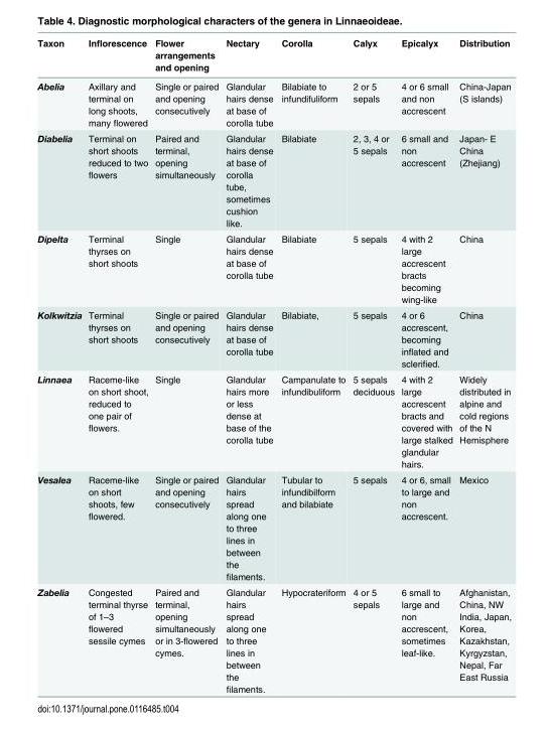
<table><thead><tr><td>Taxon</td><td>Inflorescence</td><td>Flower arrangements and opening</td><td>Nectary</td><td>Corolla</td><td>Calyx</td><td>Epicalyx</td><td>Distribution</td></tr></thead><tbody><tr><td>Abelia</td><td>Axillary and terminal on long shoots, many flowered</td><td>Single or paired and opening consecutively</td><td>Glandular hairs dense at base of corolla tube</td><td>Bilabiate to infundifuliform</td><td>2 or 5 sepals</td><td>4 or 6 small and non accrescent</td><td>China-Japan (S islands)</td></tr><tr><td>Diabelia</td><td>Terminal on short shoots reduced to two flowers</td><td>Paired and terminal, opening simultaneously</td><td>Glandular hairs dense at base of corolla tube, sometimes cushion like.</td><td>Bilabiate</td><td>2, 3, 4 or 5 sepals</td><td>6 small and non accrescent</td><td>Japan- E China (Zhejiang)</td></tr><tr><td>Dipelta</td><td>Terminal thyrses on short shoots</td><td>Single</td><td>Glandular hairs dense at base of corolla tube</td><td>Bilabiate</td><td>5 sepals</td><td>4 with 2 large accrescent bracts becoming wing-like</td><td>China</td></tr><tr><td>Kolkwitzia</td><td>Terminal thyrses on short shoots</td><td>Single or paired and opening consecutively</td><td>Glandular hairs dense at base of corolla tube</td><td>Bilabiate,</td><td>5 sepals</td><td>4 or 6 accrescent, becoming inflated and sclerified.</td><td>China</td></tr><tr><td>Linnaea</td><td>Raceme-like on short shoot, reduced to one pair of flowers.</td><td>Single</td><td>Glandular hairs more or less dense at base of the corolla tube</td><td>Campanulate to infundibuliform</td><td>5 sepals deciduous</td><td>4 with 2 large accrescent bracts and covered with large stalked glandular hairs.</td><td>Widely distributed in alpine and cold regions of the N Hemisphere</td></tr><tr><td>Vesalea</td><td>Raceme-like on short shoots, few flowered.</td><td>Single or paired and opening consecutively</td><td>Glandular hairs spread along one to three lines in between the filaments.</td><td>Tubular to infundibilform and bilabiate</td><td>5 sepals</td><td>4 or 6, small to large and non accrescent.</td><td>Mexico</td></tr><tr><td>Zabelia</td><td>Congested terminal thyrse of 1–3 flowered sessile cymes</td><td>Paired and terminal, opening simultaneously or in 3-flowered cymes.</td><td>Glandular hairs spread along one to three lines in between the filaments.</td><td>Hypocrateriform</td><td>4 or 5 sepals</td><td>6 small to large and non accrescent, sometimes leaf-like.</td><td>Afghanistan, China, NW India, Japan, Korea, Kazakhstan, Kyrgyzstan, Nepal, Far East Russia</td></tr></tbody></table>